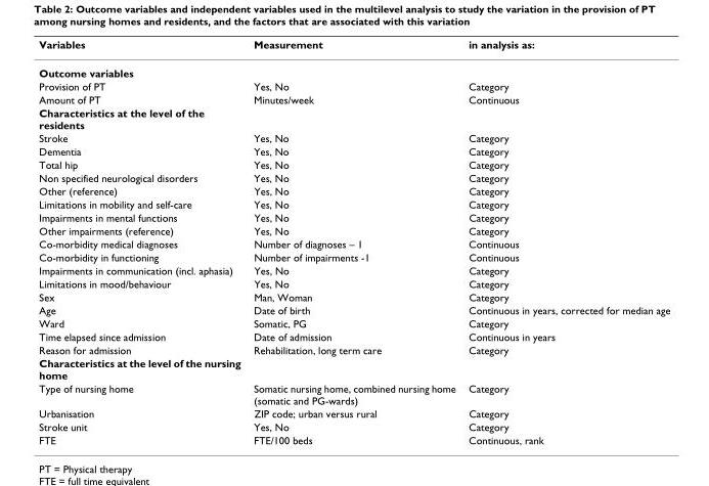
<table><thead><tr><td>Variables</td><td>Measurement</td><td>in analysis as:</td></tr></thead><tbody><tr><td colspan="3">Outcome variables</td></tr><tr><td>Provision of PT</td><td>Yes, No</td><td>Category</td></tr><tr><td>Amount of PT</td><td>Minutes/week</td><td>Continuous</td></tr><tr><td colspan="3">Characteristics at the level of the residents</td></tr><tr><td>Stroke</td><td>Yes, No</td><td>Category</td></tr><tr><td>Dementia</td><td>Yes, No</td><td>Category</td></tr><tr><td>Total hip</td><td>Yes, No</td><td>Category</td></tr><tr><td>Non specified neurological disorders</td><td>Yes, No</td><td>Category</td></tr><tr><td>Other (reference)</td><td>Yes, No</td><td>Category</td></tr><tr><td>Limitations in mobility and self-care</td><td>Yes, No</td><td>Category</td></tr><tr><td>Impairments in mental functions</td><td>Yes, No</td><td>Category</td></tr><tr><td>Other impairments (reference)</td><td>Yes, No</td><td>Category</td></tr><tr><td>Co-morbidity medical diagnoses</td><td>Number of diagnoses – 1</td><td>Continuous</td></tr><tr><td>Co-morbidity in functioning</td><td>Number of impairments -1</td><td>Continuous</td></tr><tr><td>Impairments in communication (incl. aphasia)</td><td>Yes, No</td><td>Category</td></tr><tr><td>Limitations in mood/behaviour</td><td>Yes, No</td><td>Category</td></tr><tr><td>Sex</td><td>Man, Woman</td><td>Category</td></tr><tr><td>Age</td><td>Date of birth</td><td>Continuous in years, corrected for median age</td></tr><tr><td>Ward</td><td>Somatic, PG</td><td>Category</td></tr><tr><td>Time elapsed since admission</td><td>Date of admission</td><td>Continuous in years</td></tr><tr><td>Reason for admission</td><td>Rehabilitation, long term care</td><td>Category</td></tr><tr><td colspan="3">Characteristics at the level of the nursing home</td></tr><tr><td>Type of nursing home</td><td>Somatic nursing home, combined nursing home (somatic and PG-wards)</td><td>Category</td></tr><tr><td>Urbanisation</td><td>ZIP code; urban versus rural</td><td>Category</td></tr><tr><td>Stroke unit</td><td>Yes, No</td><td>Category</td></tr><tr><td>FTE</td><td>FTE/100 beds</td><td>Continuous, rank</td></tr></tbody></table>